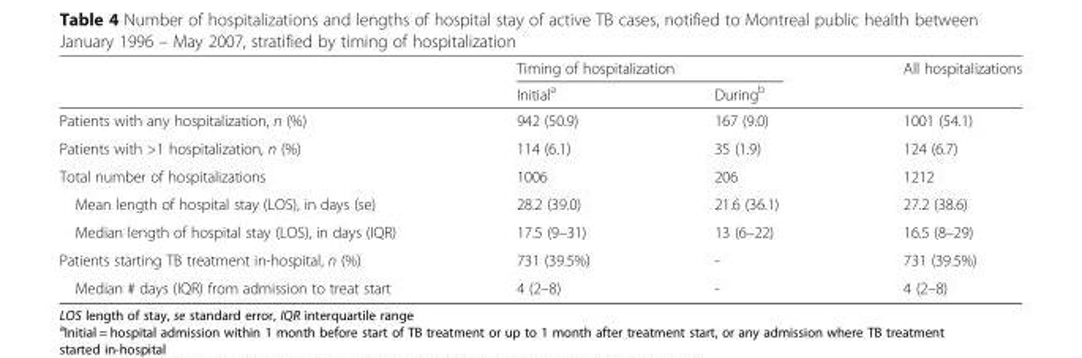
<table><thead><tr><td rowspan="2"></td><td colspan="2">Timing of hospitalization</td><td rowspan="2">All hospitalizations</td></tr><tr><td>Initial<sup>a</sup></td><td>During<sup>b</sup></td></tr></thead><tbody><tr><td>Patients with any hospitalization, n (%)</td><td>942 (50.9)</td><td>167 (9.0)</td><td>1001 (54.1)</td></tr><tr><td>Patients with &gt;1 hospitalization, n (%)</td><td>114 (6.1)</td><td>35 (1.9)</td><td>124 (6.7)</td></tr><tr><td>Total number of hospitalizations</td><td>1006</td><td>206</td><td>1212</td></tr><tr><td>Mean length of hospital stay (LOS), in days (se)</td><td>28.2 (39.0)</td><td>21.6 (36.1)</td><td>27.2 (38.6)</td></tr><tr><td>Median length of hospital stay (LOS), in days (IQR)</td><td>17.5 (9–31)</td><td>13 (6–22)</td><td>16.5 (8–29)</td></tr><tr><td>Patients starting TB treatment in-hospital, n (%)</td><td>731 (39.5%)</td><td>-</td><td>731 (39.5%)</td></tr><tr><td>Median # days (IQR) from admission to treat start</td><td>4 (2–8)</td><td>-</td><td>4 (2–8)</td></tr></tbody></table>